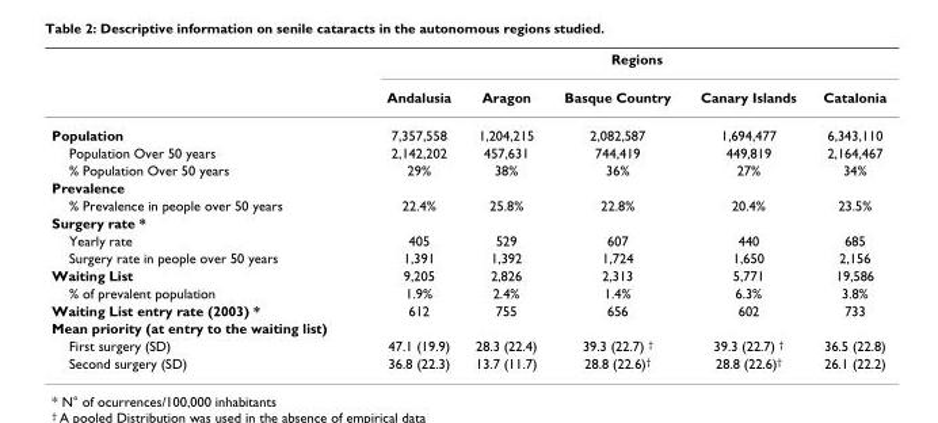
<table><thead><tr><td rowspan="2"></td><td colspan="5">Regions</td></tr><tr><td>Andalusia</td><td>Aragon</td><td>Basque Country</td><td>Canary Islands</td><td>Catalonia</td></tr></thead><tbody><tr><td>Population</td><td>7,357,558</td><td>1,204,215</td><td>2,082,587</td><td>1,694,477</td><td>6,343,110</td></tr><tr><td>Population Over 50 years</td><td>2,142,202</td><td>457,631</td><td>744,419</td><td>449,819</td><td>2,164,467</td></tr><tr><td>% Population Over 50 years</td><td>29%</td><td>38%</td><td>36%</td><td>27%</td><td>34%</td></tr><tr><td colspan="6">Prevalence</td></tr><tr><td>% Prevalence in people over 50 years</td><td>22.4%</td><td>25.8%</td><td>22.8%</td><td>20.4%</td><td>23.5%</td></tr><tr><td colspan="6">Surgery rate *</td></tr><tr><td>Yearly rate</td><td>405</td><td>529</td><td>607</td><td>440</td><td>685</td></tr><tr><td>Surgery rate in people over 50 years</td><td>1,391</td><td>1,392</td><td>1,724</td><td>1,650</td><td>2,156</td></tr><tr><td>Waiting List</td><td>9,205</td><td>2,826</td><td>2,313</td><td>5,771</td><td>19,586</td></tr><tr><td>% of prevalent population</td><td>1.9%</td><td>2.4%</td><td>1.4%</td><td>6.3%</td><td>3.8%</td></tr><tr><td>Waiting List entry rate (2003) *</td><td>612</td><td>755</td><td>656</td><td>602</td><td>733</td></tr><tr><td colspan="6">Mean priority (at entry to the waiting list)</td></tr><tr><td>First surgery (SD)</td><td>47.1 (19.9)</td><td>28.3 (22.4)</td><td>39.3 (22.7) <sup>†</sup></td><td>39.3 (22.7) <sup>†</sup></td><td>36.5 (22.8)</td></tr><tr><td>Second surgery (SD)</td><td>36.8 (22.3)</td><td>13.7 (11.7)</td><td>28.8 (22.6)<sup>†</sup></td><td>28.8 (22.6)<sup>†</sup></td><td>26.1 (22.2)</td></tr></tbody></table>